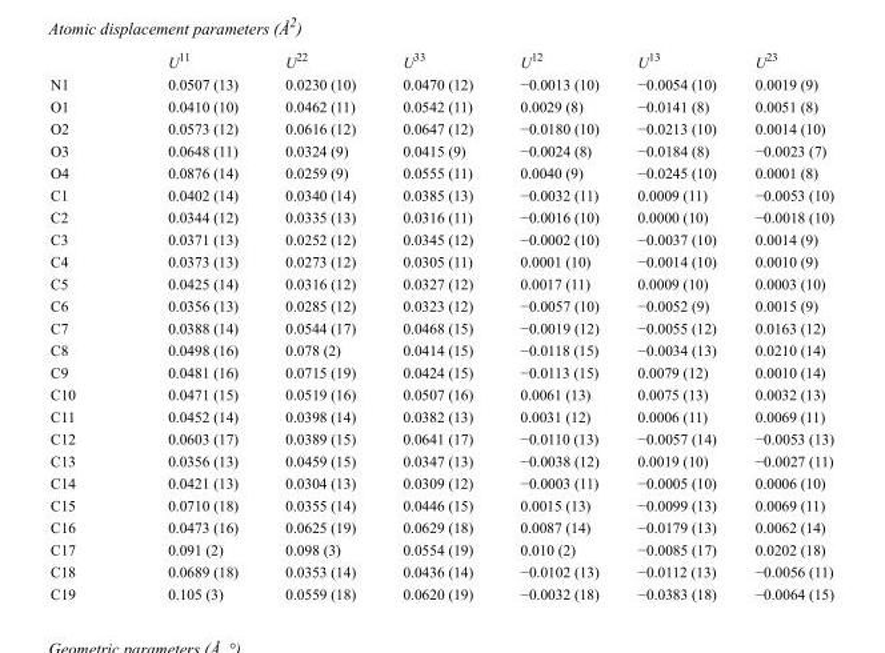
<table><thead><tr><td></td><td>U<sup>11</sup></td><td>U<sup>22</sup></td><td>U<sup>33</sup></td><td>U<sup>12</sup></td><td>U<sup>13</sup></td><td>U<sup>23</sup></td></tr></thead><tbody><tr><td>N1</td><td>0.0507 (13)</td><td>0.0230 (10)</td><td>0.0470 (12)</td><td>−0.0013 (10)</td><td>−0.0054 (10)</td><td>0.0019 (9)</td></tr><tr><td>O1</td><td>0.0410 (10)</td><td>0.0462 (11)</td><td>0.0542 (11)</td><td>0.0029 (8)</td><td>−0.0141 (8)</td><td>0.0051 (8)</td></tr><tr><td>O2</td><td>0.0573 (12)</td><td>0.0616 (12)</td><td>0.0647 (12)</td><td>−0.0180 (10)</td><td>−0.0213 (10)</td><td>0.0014 (10)</td></tr><tr><td>O3</td><td>0.0648 (11)</td><td>0.0324 (9)</td><td>0.0415 (9)</td><td>−0.0024 (8)</td><td>−0.0184 (8)</td><td>−0.0023 (7)</td></tr><tr><td>O4</td><td>0.0876 (14)</td><td>0.0259 (9)</td><td>0.0555 (11)</td><td>0.0040 (9)</td><td>−0.0245 (10)</td><td>0.0001 (8)</td></tr><tr><td>C1</td><td>0.0402 (14)</td><td>0.0340 (14)</td><td>0.0385 (13)</td><td>−0.0032 (11)</td><td>0.0009 (11)</td><td>−0.0053 (10)</td></tr><tr><td>C2</td><td>0.0344 (12)</td><td>0.0335 (13)</td><td>0.0316 (11)</td><td>−0.0016 (10)</td><td>0.0000 (10)</td><td>−0.0018 (10)</td></tr><tr><td>C3</td><td>0.0371 (13)</td><td>0.0252 (12)</td><td>0.0345 (12)</td><td>−0.0002 (10)</td><td>−0.0037 (10)</td><td>0.0014 (9)</td></tr><tr><td>C4</td><td>0.0373 (13)</td><td>0.0273 (12)</td><td>0.0305 (11)</td><td>0.0001 (10)</td><td>−0.0014 (10)</td><td>0.0010 (9)</td></tr><tr><td>C5</td><td>0.0425 (14)</td><td>0.0316 (12)</td><td>0.0327 (12)</td><td>0.0017 (11)</td><td>0.0009 (10)</td><td>0.0003 (10)</td></tr><tr><td>C6</td><td>0.0356 (13)</td><td>0.0285 (12)</td><td>0.0323 (12)</td><td>−0.0057 (10)</td><td>−0.0052 (9)</td><td>0.0015 (9)</td></tr><tr><td>C7</td><td>0.0388 (14)</td><td>0.0544 (17)</td><td>0.0468 (15)</td><td>−0.0019 (12)</td><td>−0.0055 (12)</td><td>0.0163 (12)</td></tr><tr><td>C8</td><td>0.0498 (16)</td><td>0.078 (2)</td><td>0.0414 (15)</td><td>−0.0118 (15)</td><td>−0.0034 (13)</td><td>0.0210 (14)</td></tr><tr><td>C9</td><td>0.0481 (16)</td><td>0.0715 (19)</td><td>0.0424 (15)</td><td>−0.0113 (15)</td><td>0.0079 (12)</td><td>0.0010 (14)</td></tr><tr><td>C10</td><td>0.0471 (15)</td><td>0.0519 (16)</td><td>0.0507 (16)</td><td>0.0061 (13)</td><td>0.0075 (13)</td><td>0.0032 (13)</td></tr><tr><td>C11</td><td>0.0452 (14)</td><td>0.0398 (14)</td><td>0.0382 (13)</td><td>0.0031 (12)</td><td>0.0006 (11)</td><td>0.0069 (11)</td></tr><tr><td>C12</td><td>0.0603 (17)</td><td>0.0389 (15)</td><td>0.0641 (17)</td><td>−0.0110 (13)</td><td>−0.0057 (14)</td><td>−0.0053 (13)</td></tr><tr><td>C13</td><td>0.0356 (13)</td><td>0.0459 (15)</td><td>0.0347 (13)</td><td>−0.0038 (12)</td><td>0.0019 (10)</td><td>−0.0027 (11)</td></tr><tr><td>C14</td><td>0.0421 (13)</td><td>0.0304 (13)</td><td>0.0309 (12)</td><td>−0.0003 (11)</td><td>−0.0005 (10)</td><td>0.0006 (10)</td></tr><tr><td>C15</td><td>0.0710 (18)</td><td>0.0355 (14)</td><td>0.0446 (15)</td><td>0.0015 (13)</td><td>−0.0099 (13)</td><td>0.0069 (11)</td></tr><tr><td>C16</td><td>0.0473 (16)</td><td>0.0625 (19)</td><td>0.0629 (18)</td><td>0.0087 (14)</td><td>−0.0179 (13)</td><td>0.0062 (14)</td></tr><tr><td>C17</td><td>0.091 (2)</td><td>0.098 (3)</td><td>0.0554 (19)</td><td>0.010 (2)</td><td>−0.0085 (17)</td><td>0.0202 (18)</td></tr><tr><td>C18</td><td>0.0689 (18)</td><td>0.0353 (14)</td><td>0.0436 (14)</td><td>−0.0102 (13)</td><td>−0.0112 (13)</td><td>−0.0056 (11)</td></tr><tr><td>C19</td><td>0.105 (3)</td><td>0.0559 (18)</td><td>0.0620 (19)</td><td>−0.0032 (18)</td><td>−0.0383 (18)</td><td>−0.0064 (15)</td></tr></tbody></table>